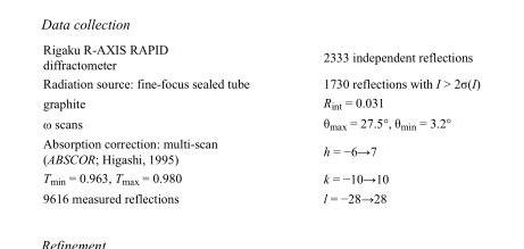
<table><tbody><tr><td>Rigaku R-AXIS RAPID diffractometer</td><td>2333 independent reflections</td></tr><tr><td>Radiation source: fine-focus sealed tube</td><td>1730 reflections with I &gt; 2σ(I)</td></tr><tr><td>graphite</td><td>R<sub>int</sub> = 0.031</td></tr><tr><td>ω scans</td><td>θ<sub>max</sub> = 27.5°, θ<sub>min</sub> = 3.2°</td></tr><tr><td>Absorption correction: multi-scan (ABSCOR; Higashi, 1995)</td><td>h = −6→7</td></tr><tr><td>T<sub>min</sub> = 0.963, T<sub>max</sub> = 0.980</td><td>k = −10→10</td></tr><tr><td>9616 measured reflections</td><td>l = −28→28</td></tr></tbody></table>